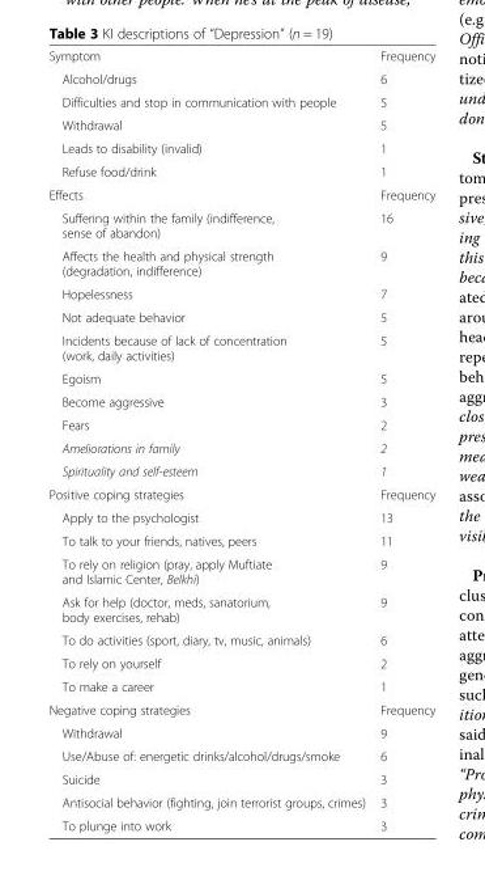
<table><tbody><tr><td>Symptom</td><td>Frequency</td></tr><tr><td>Alcohol/drugs</td><td>6</td></tr><tr><td>Difficulties and stop in communication with people</td><td>5</td></tr><tr><td>Withdrawal</td><td>5</td></tr><tr><td>Leads to disability (invalid)</td><td>1</td></tr><tr><td>Refuse food/drink</td><td>1</td></tr><tr><td>Effects</td><td>Frequency</td></tr><tr><td>Suffering within the family (indifference, sense of abandon)</td><td>16</td></tr><tr><td>Affects the health and physical strength (degradation, indifference)</td><td>9</td></tr><tr><td>Hopelessness</td><td>7</td></tr><tr><td>Not adequate behavior</td><td>5</td></tr><tr><td>Incidents because of lack of concentration (work, daily activities)</td><td>5</td></tr><tr><td>Egoism</td><td>5</td></tr><tr><td>Become aggressive</td><td>3</td></tr><tr><td>Fears</td><td>2</td></tr><tr><td>Ameliorations in family</td><td>2</td></tr><tr><td>Spirituality and self-esteem</td><td>1</td></tr><tr><td>Positive coping strategies</td><td>Frequency</td></tr><tr><td>Apply to the psychologist</td><td>13</td></tr><tr><td>To talk to your friends, natives, peers</td><td>11</td></tr><tr><td>To rely on religion (pray, apply Muftiate and Islamic Center, Belkhi)</td><td>9</td></tr><tr><td>Ask for help (doctor, meds, sanatorium, body exercises, rehab)</td><td>9</td></tr><tr><td>To do activities (sport, diary, tv, music, animals)</td><td>6</td></tr><tr><td>To rely on yourself</td><td>2</td></tr><tr><td>To make a career</td><td>1</td></tr><tr><td>Negative coping strategies</td><td>Frequency</td></tr><tr><td>Withdrawal</td><td>9</td></tr><tr><td>Use/Abuse of: energetic drinks/alcohol/drugs/smoke</td><td>6</td></tr><tr><td>Suicide</td><td>3</td></tr><tr><td>Antisocial behavior (fighting, join terrorist groups, crimes)</td><td>3</td></tr><tr><td>To plunge into work</td><td>3</td></tr></tbody></table>